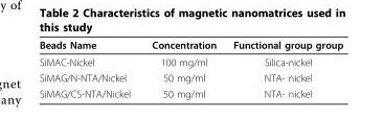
<table><thead><tr><td>Beads Name</td><td>Concentration</td><td>Functional group group</td></tr></thead><tbody><tr><td>SiMAC-Nickel</td><td>100 mg/ml</td><td>Silica-nickel</td></tr><tr><td>SiMAG/N-NTA/Nickel</td><td>50 mg/ml</td><td>NTA- nickel</td></tr><tr><td>SiMAG/CS-NTA/Nickel</td><td>50 mg/ml</td><td>NTA- nickel</td></tr></tbody></table>